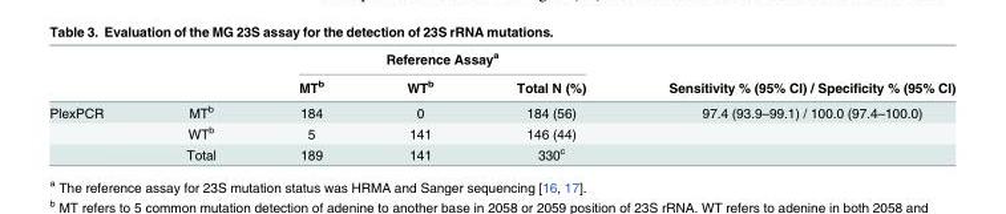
<table><thead><tr><td rowspan="2"></td><td rowspan="2"></td><td colspan="3">Reference Assay<sup>a</sup></td><td rowspan="2">Sensitivity % (95% CI) / Specificity % (95% CI)</td></tr><tr><td>MT<sup>b</sup></td><td>WT<sup>b</sup></td><td>Total N (%)</td></tr></thead><tbody><tr><td rowspan="3">PlexPCR</td><td>MT<sup>b</sup></td><td>184</td><td>0</td><td>184 (56)</td><td>97.4 (93.9–99.1) / 100.0 (97.4–100.0)</td></tr><tr><td>WT<sup>b</sup></td><td>5</td><td>141</td><td>146 (44)</td><td></td></tr><tr><td>Total</td><td>189</td><td>141</td><td>330<sup>c</sup></td><td></td></tr></tbody></table>